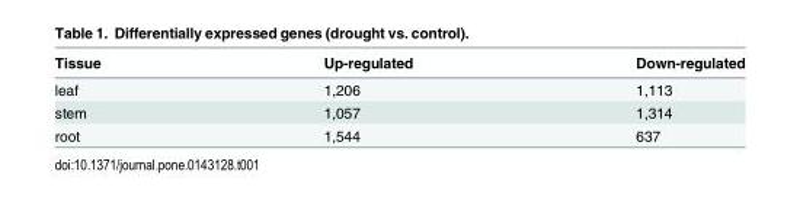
<table><thead><tr><td>Tissue</td><td>Up-regulated</td><td>Down-regulated</td></tr></thead><tbody><tr><td>leaf</td><td>1,206</td><td>1,113</td></tr><tr><td>stem</td><td>1,057</td><td>1,314</td></tr><tr><td>root</td><td>1,544</td><td>637</td></tr></tbody></table>